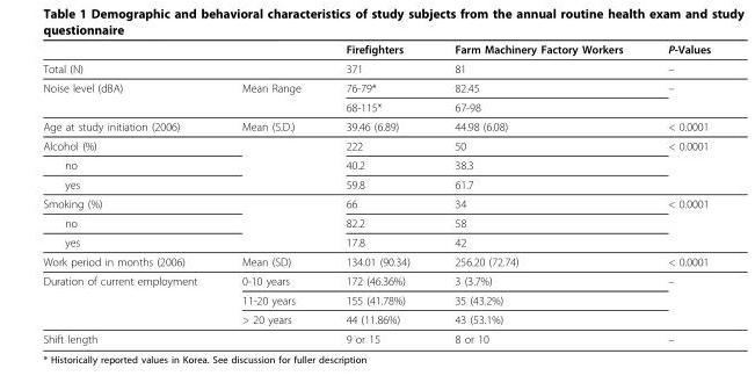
<table><thead><tr><td></td><td></td><td>Firefighters</td><td>Farm Machinery Factory Workers</td><td>P-Values</td></tr></thead><tbody><tr><td>Total (N)</td><td></td><td>371</td><td>81</td><td>–</td></tr><tr><td rowspan="2">Noise level (dBA)</td><td>Mean Range</td><td>76-79*</td><td>82.45</td><td>–</td></tr><tr><td></td><td>68-115*</td><td>67-98</td><td></td></tr><tr><td>Age at study initiation (2006)</td><td>Mean (S.D.)</td><td>39.46 (6.89)</td><td>44.98 (6.08)</td><td>&lt; 0.0001</td></tr><tr><td>Alcohol (%)</td><td></td><td>222</td><td>50</td><td>&lt; 0.0001</td></tr><tr><td>no</td><td></td><td>40.2</td><td>38.3</td><td></td></tr><tr><td>yes</td><td></td><td>59.8</td><td>61.7</td><td></td></tr><tr><td>Smoking (%)</td><td></td><td>66</td><td>34</td><td>&lt; 0.0001</td></tr><tr><td>no</td><td></td><td>82.2</td><td>58</td><td></td></tr><tr><td>yes</td><td></td><td>17.8</td><td>42</td><td></td></tr><tr><td>Work period in months (2006)</td><td>Mean (SD)</td><td>134.01 (90.34)</td><td>256.20 (72.74)</td><td>&lt; 0.0001</td></tr><tr><td rowspan="3">Duration of current employment</td><td>0-10 years</td><td>172 (46.36%)</td><td>3 (3.7%)</td><td>–</td></tr><tr><td>11-20 years</td><td>155 (41.78%)</td><td>35 (43.2%)</td><td></td></tr><tr><td>&gt; 20 years</td><td>44 (11.86%)</td><td>43 (53.1%)</td><td></td></tr><tr><td>Shift length</td><td></td><td>9 or 15</td><td>8 or 10</td><td>–</td></tr></tbody></table>